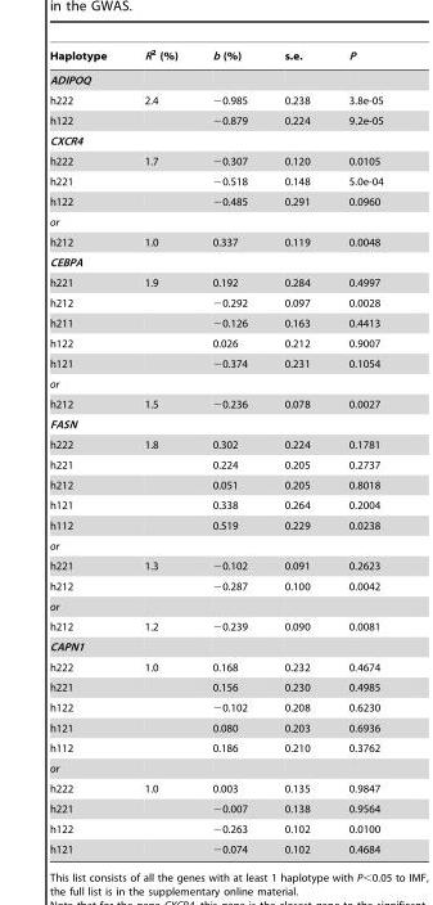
<table><thead><tr><td>Haplotype</td><td>R<sup>2</sup> (%)</td><td>b (%)</td><td>s.e.</td><td>P</td></tr></thead><tbody><tr><td colspan="5">ADIPOQ</td></tr><tr><td>h222</td><td>2.4</td><td>−0.985</td><td>0.238</td><td>3.8e-05</td></tr><tr><td>h122</td><td></td><td>−0.879</td><td>0.224</td><td>9.2e-05</td></tr><tr><td colspan="5">CXCR4</td></tr><tr><td>h222</td><td>1.7</td><td>−0.307</td><td>0.120</td><td>0.0105</td></tr><tr><td>h221</td><td></td><td>−0.518</td><td>0.148</td><td>5.0e-04</td></tr><tr><td>h122</td><td></td><td>−0.485</td><td>0.291</td><td>0.0960</td></tr><tr><td colspan="5">or</td></tr><tr><td>h212</td><td>1.0</td><td>0.337</td><td>0.119</td><td>0.0048</td></tr><tr><td colspan="5">CEBPA</td></tr><tr><td>h221</td><td>1.9</td><td>0.192</td><td>0.284</td><td>0.4997</td></tr><tr><td>h212</td><td></td><td>−0.292</td><td>0.097</td><td>0.0028</td></tr><tr><td>h211</td><td></td><td>−0.126</td><td>0.163</td><td>0.4413</td></tr><tr><td>h122</td><td></td><td>0.026</td><td>0.212</td><td>0.9007</td></tr><tr><td>h121</td><td></td><td>−0.374</td><td>0.231</td><td>0.1054</td></tr><tr><td colspan="5">or</td></tr><tr><td>h212</td><td>1.5</td><td>−0.236</td><td>0.078</td><td>0.0027</td></tr><tr><td colspan="5">FASN</td></tr><tr><td>h222</td><td>1.8</td><td>0.302</td><td>0.224</td><td>0.1781</td></tr><tr><td>h221</td><td></td><td>0.224</td><td>0.205</td><td>0.2737</td></tr><tr><td>h212</td><td></td><td>0.051</td><td>0.205</td><td>0.8018</td></tr><tr><td>h121</td><td></td><td>0.338</td><td>0.264</td><td>0.2004</td></tr><tr><td>h112</td><td></td><td>0.519</td><td>0.229</td><td>0.0238</td></tr><tr><td colspan="5">or</td></tr><tr><td>h221</td><td>1.3</td><td>−0.102</td><td>0.091</td><td>0.2623</td></tr><tr><td>h212</td><td></td><td>−0.287</td><td>0.100</td><td>0.0042</td></tr><tr><td colspan="5">or</td></tr><tr><td>h212</td><td>1.2</td><td>−0.239</td><td>0.090</td><td>0.0081</td></tr><tr><td colspan="5">CAPN1</td></tr><tr><td>h222</td><td>1.0</td><td>0.168</td><td>0.232</td><td>0.4674</td></tr><tr><td>h221</td><td></td><td>0.156</td><td>0.230</td><td>0.4985</td></tr><tr><td>h122</td><td></td><td>−0.102</td><td>0.208</td><td>0.6230</td></tr><tr><td>h121</td><td></td><td>0.080</td><td>0.203</td><td>0.6936</td></tr><tr><td>h112</td><td></td><td>0.186</td><td>0.210</td><td>0.3762</td></tr><tr><td colspan="5">or</td></tr><tr><td>h222</td><td>1.0</td><td>0.003</td><td>0.135</td><td>0.9847</td></tr><tr><td>h221</td><td></td><td>−0.007</td><td>0.138</td><td>0.9564</td></tr><tr><td>h122</td><td></td><td>−0.263</td><td>0.102</td><td>0.0100</td></tr><tr><td>h121</td><td></td><td>−0.074</td><td>0.102</td><td>0.4684</td></tr></tbody></table>